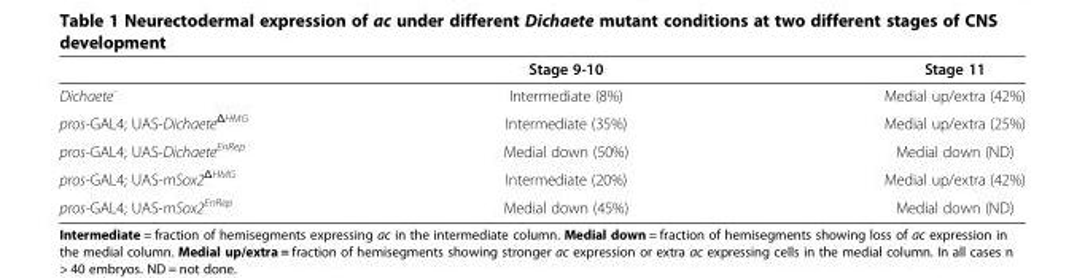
<table><thead><tr><td></td><td>Stage 9-10</td><td>Stage 11</td></tr></thead><tbody><tr><td>Dichaete<sup>-</sup></td><td>Intermediate (8%)</td><td>Medial up/extra (42%)</td></tr><tr><td>pros-GAL4; UAS-Dichaete<sup>ΔHMG</sup></td><td>Intermediate (35%)</td><td>Medial up/extra (25%)</td></tr><tr><td>pros-GAL4; UAS-Dichaete<sup>EnRep</sup></td><td>Medial down (50%)</td><td>Medial down (ND)</td></tr><tr><td>pros-GAL4; UAS-mSox2<sup>ΔHMG</sup></td><td>Intermediate (20%)</td><td>Medial up/extra (42%)</td></tr><tr><td>pros-GAL4; UAS-mSox2<sup>EnRep</sup></td><td>Medial down (45%)</td><td>Medial down (ND)</td></tr></tbody></table>